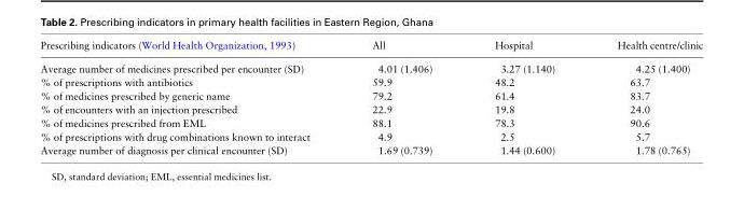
<table><thead><tr><td>Prescribing indicators (World Health Organization, 1993)</td><td>All</td><td>Hospital</td><td>Health centre/clinic</td></tr></thead><tbody><tr><td>Average number of medicines prescribed per encounter (SD)</td><td>4.01 (1.406)</td><td>3.27 (1.140)</td><td>4.25 (1.400)</td></tr><tr><td>% of prescriptions with antibiotics</td><td>59.9</td><td>48.2</td><td>63.7</td></tr><tr><td>% of medicines prescribed by generic name</td><td>79.2</td><td>61.4</td><td>83.7</td></tr><tr><td>% of encounters with an injection prescribed</td><td>22.9</td><td>19.8</td><td>24.0</td></tr><tr><td>% of medicines prescribed from EML</td><td>88.1</td><td>78.3</td><td>90.6</td></tr><tr><td>% of prescriptions with drug combinations known to interact</td><td>4.9</td><td>2.5</td><td>5.7</td></tr><tr><td>Average number of diagnosis per clinical encounter (SD)</td><td>1.69 (0.739)</td><td>1.44 (0.600)</td><td>1.78 (0.765)</td></tr></tbody></table>